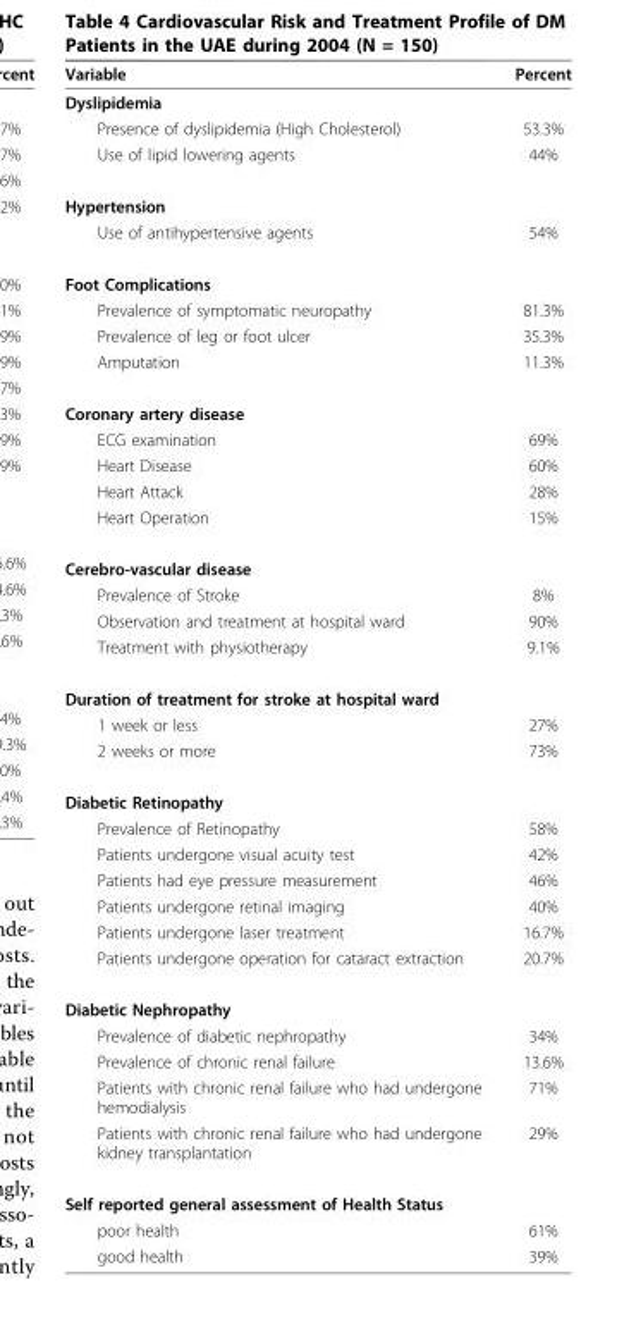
<table><thead><tr><td>Variable</td><td>Percent</td></tr></thead><tbody><tr><td colspan="2">Dyslipidemia</td></tr><tr><td>Presence of dyslipidemia (High Cholesterol)</td><td>53.3%</td></tr><tr><td>Use of lipid lowering agents</td><td>44%</td></tr><tr><td colspan="2">Hypertension</td></tr><tr><td>Use of antihypertensive agents</td><td>54%</td></tr><tr><td colspan="2">Foot Complications</td></tr><tr><td>Prevalence of symptomatic neuropathy</td><td>81.3%</td></tr><tr><td>Prevalence of leg or foot ulcer</td><td>35.3%</td></tr><tr><td>Amputation</td><td>11.3%</td></tr><tr><td colspan="2">Coronary artery disease</td></tr><tr><td>ECG examination</td><td>69%</td></tr><tr><td>Heart Disease</td><td>60%</td></tr><tr><td>Heart Attack</td><td>28%</td></tr><tr><td>Heart Operation</td><td>15%</td></tr><tr><td colspan="2">Cerebro-vascular disease</td></tr><tr><td>Prevalence of Stroke</td><td>8%</td></tr><tr><td>Observation and treatment at hospital ward</td><td>90%</td></tr><tr><td>Treatment with physiotherapy</td><td>9.1%</td></tr><tr><td colspan="2">Duration of treatment for stroke at hospital ward</td></tr><tr><td>1 week or less</td><td>27%</td></tr><tr><td>2 weeks or more</td><td>73%</td></tr><tr><td colspan="2">Diabetic Retinopathy</td></tr><tr><td>Prevalence of Retinopathy</td><td>58%</td></tr><tr><td>Patients undergone visual acuity test</td><td>42%</td></tr><tr><td>Patients had eye pressure measurement</td><td>46%</td></tr><tr><td>Patients undergone retinal imaging</td><td>40%</td></tr><tr><td>Patients undergone laser treatment</td><td>16.7%</td></tr><tr><td>Patients undergone operation for cataract extraction</td><td>20.7%</td></tr><tr><td colspan="2">Diabetic Nephropathy</td></tr><tr><td>Prevalence of diabetic nephropathy</td><td>34%</td></tr><tr><td>Prevalence of chronic renal failure</td><td>13.6%</td></tr><tr><td>Patients with chronic renal failure who had undergone hemodialysis</td><td>71%</td></tr><tr><td>Patients with chronic renal failure who had undergone kidney transplantation</td><td>29%</td></tr><tr><td colspan="2">Self reported general assessment of Health Status</td></tr><tr><td>poor health</td><td>61%</td></tr><tr><td>good health</td><td>39%</td></tr></tbody></table>